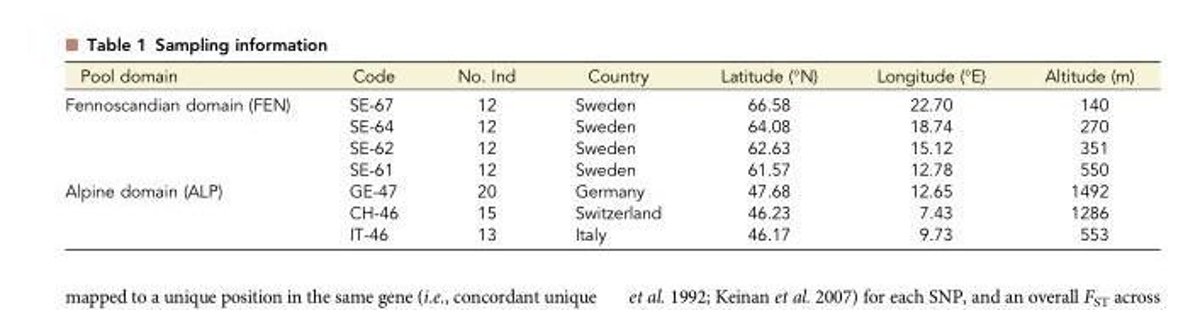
<table><thead><tr><td>Pool domain</td><td>Code</td><td>No. Ind</td><td>Country</td><td>Latitude (°N)</td><td>Longitude (°E)</td><td>Altitude (m)</td></tr></thead><tbody><tr><td rowspan="4">Fennoscandian domain (FEN)</td><td>SE-67</td><td>12</td><td>Sweden</td><td>66.58</td><td>22.70</td><td>140</td></tr><tr><td>SE-64</td><td>12</td><td>Sweden</td><td>64.08</td><td>18.74</td><td>270</td></tr><tr><td>SE-62</td><td>12</td><td>Sweden</td><td>62.63</td><td>15.12</td><td>351</td></tr><tr><td>SE-61</td><td>12</td><td>Sweden</td><td>61.57</td><td>12.78</td><td>550</td></tr><tr><td rowspan="3">Alpine domain (ALP)</td><td>GE-47</td><td>20</td><td>Germany</td><td>47.68</td><td>12.65</td><td>1492</td></tr><tr><td>CH-46</td><td>15</td><td>Switzerland</td><td>46.23</td><td>7.43</td><td>1286</td></tr><tr><td>IT-46</td><td>13</td><td>Italy</td><td>46.17</td><td>9.73</td><td>553</td></tr></tbody></table>